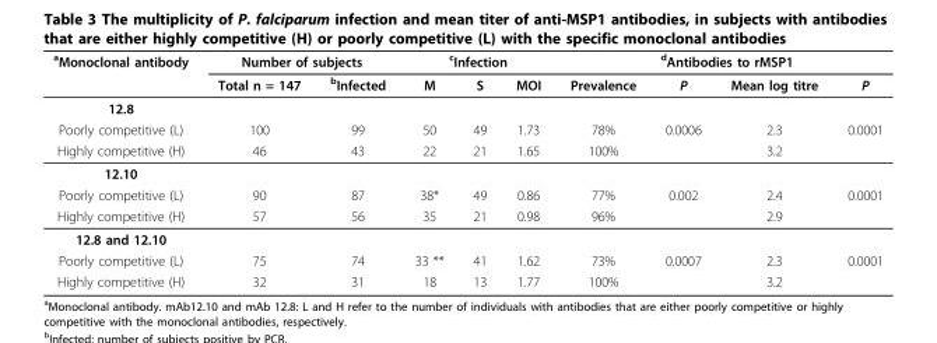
<table><thead><tr><td rowspan="2"><sup>a</sup>Monoclonal antibody</td><td colspan="2">Number of subjects</td><td colspan="3"><sup>c</sup>Infection</td><td colspan="4"><sup>d</sup>Antibodies to rMSP1</td></tr><tr><td>Total n = 147</td><td><sup>b</sup>Infected</td><td>M</td><td>S</td><td>MOI</td><td>Prevalence</td><td>P</td><td>Mean log titre</td><td>P</td></tr></thead><tbody><tr><td colspan="10">12.8</td></tr><tr><td>Poorly competitive (L)</td><td>100</td><td>99</td><td>50</td><td>49</td><td>1.73</td><td>78%</td><td>0.0006</td><td>2.3</td><td>0.0001</td></tr><tr><td>Highly competitive (H)</td><td>46</td><td>43</td><td>22</td><td>21</td><td>1.65</td><td>100%</td><td></td><td>3.2</td><td></td></tr><tr><td colspan="10">12.10</td></tr><tr><td>Poorly competitive (L)</td><td>90</td><td>87</td><td>38*</td><td>49</td><td>0.86</td><td>77%</td><td>0.002</td><td>2.4</td><td>0.0001</td></tr><tr><td>Highly competitive (H)</td><td>57</td><td>56</td><td>35</td><td>21</td><td>0.98</td><td>96%</td><td></td><td>2.9</td><td></td></tr><tr><td colspan="10">12.8 and 12.10</td></tr><tr><td>Poorly competitive (L)</td><td>75</td><td>74</td><td>33 **</td><td>41</td><td>1.62</td><td>73%</td><td>0.0007</td><td>2.3</td><td>0.0001</td></tr><tr><td>Highly competitive (H)</td><td>32</td><td>31</td><td>18</td><td>13</td><td>1.77</td><td>100%</td><td></td><td>3.2</td><td></td></tr></tbody></table>